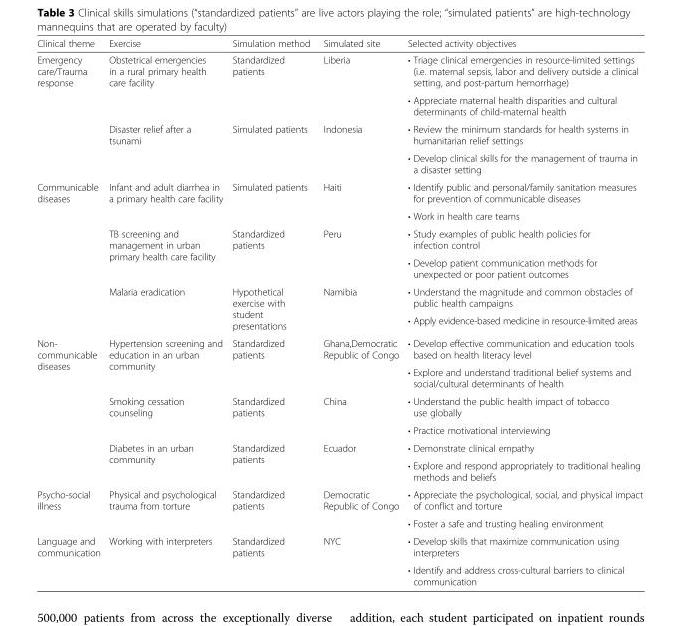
<table><thead><tr><td>Clinical theme</td><td>Exercise</td><td>Simulation method</td><td>Simulated site</td><td>Selected activity objectives</td></tr></thead><tbody><tr><td rowspan="4">Emergency care/Trauma response</td><td rowspan="2">Obstetrical emergencies in a rural primary health care facility</td><td rowspan="2">Standardized patients</td><td rowspan="2">Liberia</td><td>• Triage clinical emergencies in resource-limited settings (i.e. maternal sepsis, labor and delivery outside a clinical setting, and post-partum hemorrhage)</td></tr><tr><td>• Appreciate maternal health disparities and cultural determinants of child-maternal health</td></tr><tr><td rowspan="2">Disaster relief after a tsunami</td><td rowspan="2">Simulated patients</td><td rowspan="2">Indonesia</td><td>• Review the minimum standards for health systems in humanitarian relief settings</td></tr><tr><td>• Develop clinical skills for the management of trauma in a disaster setting</td></tr><tr><td rowspan="6">Communicable diseases</td><td rowspan="2">Infant and adult diarrhea in a primary health care facility</td><td rowspan="2">Simulated patients</td><td rowspan="2">Haiti</td><td>• Identify public and personal/family sanitation measures for prevention of communicable diseases</td></tr><tr><td>• Work in health care teams</td></tr><tr><td rowspan="2">TB screening and management in urban primary health care facility</td><td rowspan="2">Standardized patients</td><td rowspan="2">Peru</td><td>• Study examples of public health policies for infection control</td></tr><tr><td>• Develop patient communication methods for unexpected or poor patient outcomes</td></tr><tr><td rowspan="2">Malaria eradication</td><td rowspan="2">Hypothetical exercise with student presentations</td><td rowspan="2">Namibia</td><td>• Understand the magnitude and common obstacles of public health campaigns</td></tr><tr><td>• Apply evidence-based medicine in resource-limited areas</td></tr><tr><td rowspan="6">Non- communicable diseases</td><td rowspan="2">Hypertension screening and education in an urban community</td><td rowspan="2">Standardized patients</td><td rowspan="2">Ghana,Democratic Republic of Congo</td><td>• Develop effective communication and education tools based on health literacy level</td></tr><tr><td>• Explore and understand traditional belief systems and social/cultural determinants of health</td></tr><tr><td rowspan="2">Smoking cessation counseling</td><td rowspan="2">Standardized patients</td><td rowspan="2">China</td><td>• Understand the public health impact of tobacco use globally</td></tr><tr><td>• Practice motivational interviewing</td></tr><tr><td rowspan="2">Diabetes in an urban community</td><td rowspan="2">Standardized patients</td><td rowspan="2">Ecuador</td><td>• Demonstrate clinical empathy</td></tr><tr><td>• Explore and respond appropriately to traditional healing methods and beliefs</td></tr><tr><td rowspan="2">Psycho-social illness</td><td rowspan="2">Physical and psychological trauma from torture</td><td rowspan="2">Standardized patients</td><td rowspan="2">Democratic Republic of Congo</td><td>• Appreciate the psychological, social, and physical impact of conflict and torture</td></tr><tr><td>• Foster a safe and trusting healing environment</td></tr><tr><td rowspan="2">Language and communication</td><td rowspan="2">Working with interpreters</td><td rowspan="2">Standardized patients</td><td rowspan="2">NYC</td><td>• Develop skills that maximize communication using interpreters</td></tr><tr><td>• Identify and address cross-cultural barriers to clinical communication</td></tr></tbody></table>